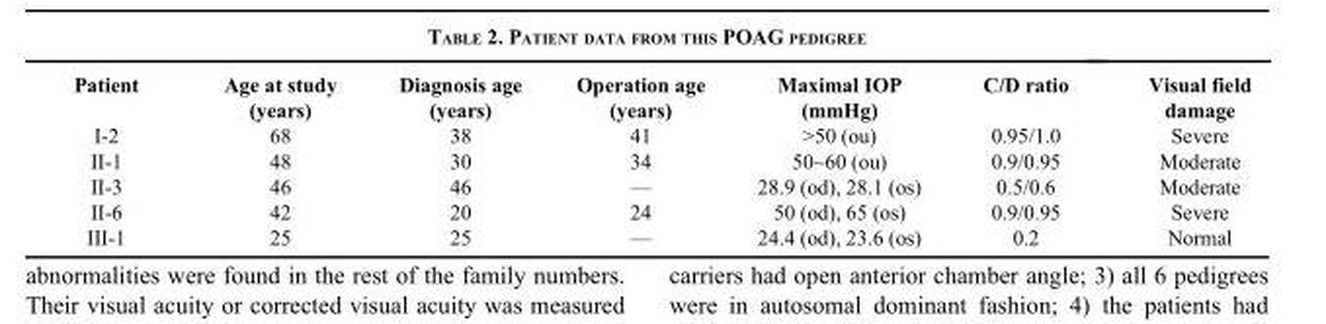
<table><thead><tr><td>Patient</td><td>Age at study (years)</td><td>Diagnosis age (years)</td><td>Operation age (years)</td><td>Maximal IOP (mmHg)</td><td>C/D ratio</td><td>Visual field damage</td></tr></thead><tbody><tr><td>I-2</td><td>68</td><td>38</td><td>41</td><td>&gt;50 (ou)</td><td>0.95/1.0</td><td>Severe</td></tr><tr><td>II-1</td><td>48</td><td>30</td><td>34</td><td>50~60 (ou)</td><td>0.9/0.95</td><td>Moderate</td></tr><tr><td>II-3</td><td>46</td><td>46</td><td>—</td><td>28.9 (od), 28.1 (os)</td><td>0.5/0.6</td><td>Moderate</td></tr><tr><td>II-6</td><td>42</td><td>20</td><td>24</td><td>50 (od), 65 (os)</td><td>0.9/0.95</td><td>Severe</td></tr><tr><td>III-1</td><td>25</td><td>25</td><td>—</td><td>24.4 (od), 23.6 (os)</td><td>0.2</td><td>Normal</td></tr></tbody></table>